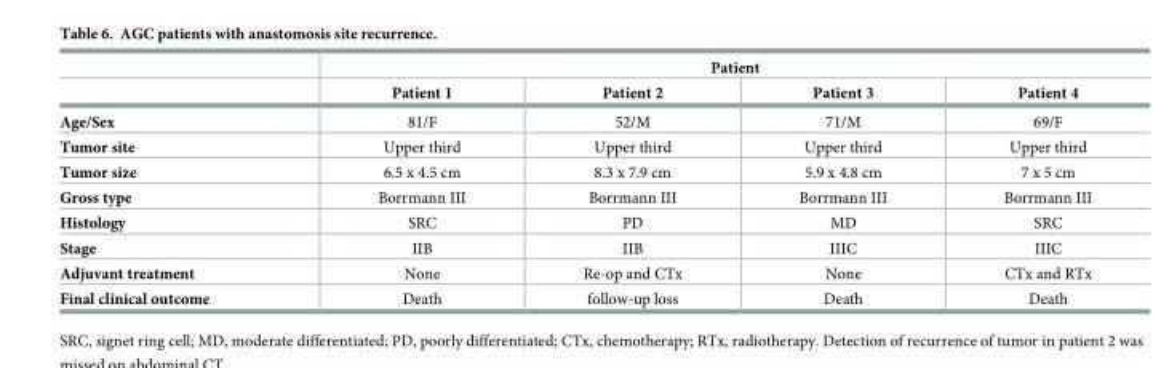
<table><thead><tr><td rowspan="2"></td><td colspan="4">Patient</td></tr><tr><td>Patient 1</td><td>Patient 2</td><td>Patient 3</td><td>Patient 4</td></tr></thead><tbody><tr><td>Age/Sex</td><td>81/F</td><td>52/M</td><td>71/M</td><td>69/F</td></tr><tr><td>Tumor site</td><td>Upper third</td><td>Upper third</td><td>Upper third</td><td>Upper third</td></tr><tr><td>Tumor size</td><td>6.5 x 4.5 cm</td><td>8.3 x 7.9 cm</td><td>5.9 x 4.8 cm</td><td>7 x 5 cm</td></tr><tr><td>Gross type</td><td>Borrmann III</td><td>Borrmann III</td><td>Borrmann III</td><td>Borrmann III</td></tr><tr><td>Histology</td><td>SRC</td><td>PD</td><td>MD</td><td>SRC</td></tr><tr><td>Stage</td><td>IIB</td><td>IIB</td><td>IIIC</td><td>IIIC</td></tr><tr><td>Adjuvant treatment</td><td>None</td><td>Re-op and CTx</td><td>None</td><td>CTx and RTx</td></tr><tr><td>Final clinical outcome</td><td>Death</td><td>follow-up loss</td><td>Death</td><td>Death</td></tr></tbody></table>